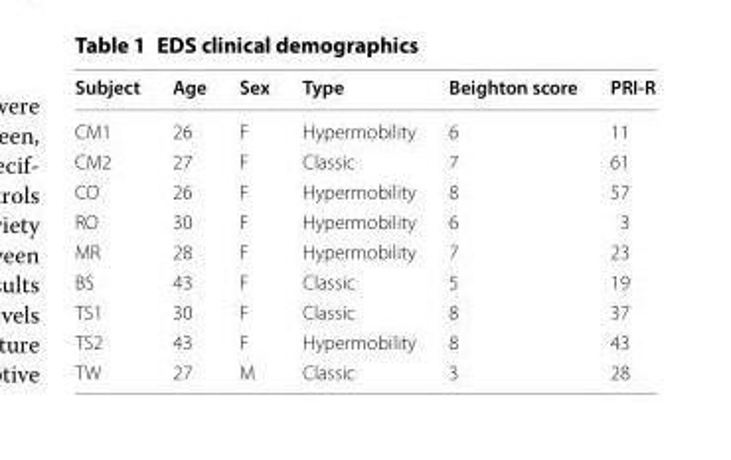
<table><thead><tr><td>Subject</td><td>Age</td><td>Sex</td><td>Type</td><td>Beighton score</td><td>PRI-R</td></tr></thead><tbody><tr><td>CM1</td><td>26</td><td>F</td><td>Hypermobility</td><td>6</td><td>11</td></tr><tr><td>CM2</td><td>27</td><td>F</td><td>Classic</td><td>7</td><td>61</td></tr><tr><td>CO</td><td>26</td><td>F</td><td>Hypermobility</td><td>8</td><td>57</td></tr><tr><td>RO</td><td>30</td><td>F</td><td>Hypermobility</td><td>6</td><td>3</td></tr><tr><td>MR</td><td>28</td><td>F</td><td>Hypermobility</td><td>7</td><td>23</td></tr><tr><td>BS</td><td>43</td><td>F</td><td>Classic</td><td>5</td><td>19</td></tr><tr><td>TS1</td><td>30</td><td>F</td><td>Classic</td><td>8</td><td>37</td></tr><tr><td>TS2</td><td>43</td><td>F</td><td>Hypermobility</td><td>8</td><td>43</td></tr><tr><td>TW</td><td>27</td><td>M</td><td>Classic</td><td>3</td><td>28</td></tr></tbody></table>